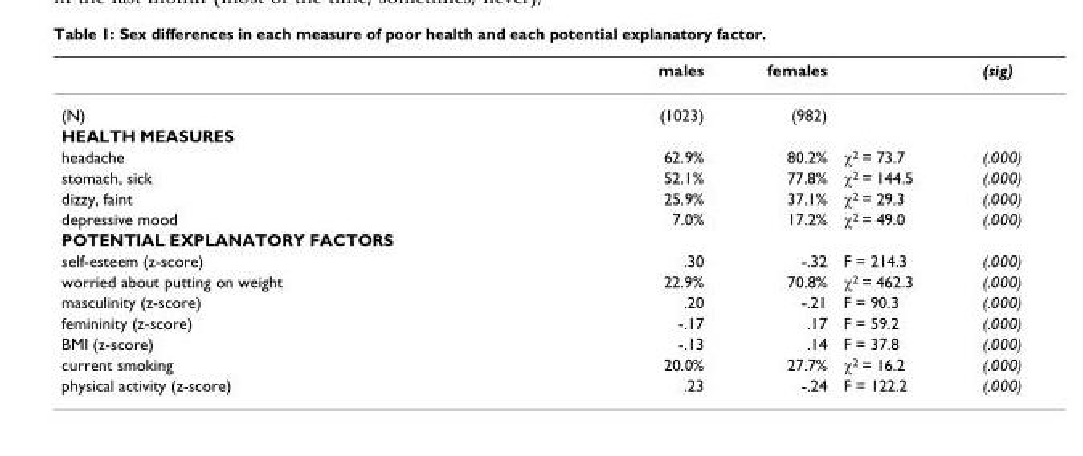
<table><thead><tr><td></td><td>males</td><td>females</td><td></td><td>(sig)</td></tr></thead><tbody><tr><td>(N)</td><td>(1023)</td><td>(982)</td><td></td><td></td></tr><tr><td colspan="5">HEALTH MEASURES</td></tr><tr><td>headache</td><td>62.9%</td><td>80.2%</td><td>χ<sup>2</sup> = 73.7</td><td>(.000)</td></tr><tr><td>stomach, sick</td><td>52.1%</td><td>77.8%</td><td>χ<sup>2</sup> = 144.5</td><td>(.000)</td></tr><tr><td>dizzy, faint</td><td>25.9%</td><td>37.1%</td><td>χ<sup>2</sup> = 29.3</td><td>(.000)</td></tr><tr><td>depressive mood</td><td>7.0%</td><td>17.2%</td><td>χ<sup>2</sup> = 49.0</td><td>(.000)</td></tr><tr><td colspan="5">POTENTIAL EXPLANATORY FACTORS</td></tr><tr><td>self-esteem (z-score)</td><td>.30</td><td>-.32</td><td>F = 214.3</td><td>(.000)</td></tr><tr><td>worried about putting on weight</td><td>22.9%</td><td>70.8%</td><td>χ<sup>2</sup> = 462.3</td><td>(.000)</td></tr><tr><td>masculinity (z-score)</td><td>.20</td><td>-.21</td><td>F = 90.3</td><td>(.000)</td></tr><tr><td>femininity (z-score)</td><td>-.17</td><td>.17</td><td>F = 59.2</td><td>(.000)</td></tr><tr><td>BMI (z-score)</td><td>-.13</td><td>.14</td><td>F = 37.8</td><td>(.000)</td></tr><tr><td>current smoking</td><td>20.0%</td><td>27.7%</td><td>χ<sup>2</sup> = 16.2</td><td>(.000)</td></tr><tr><td>physical activity (z-score)</td><td>.23</td><td>-.24</td><td>F = 122.2</td><td>(.000)</td></tr></tbody></table>